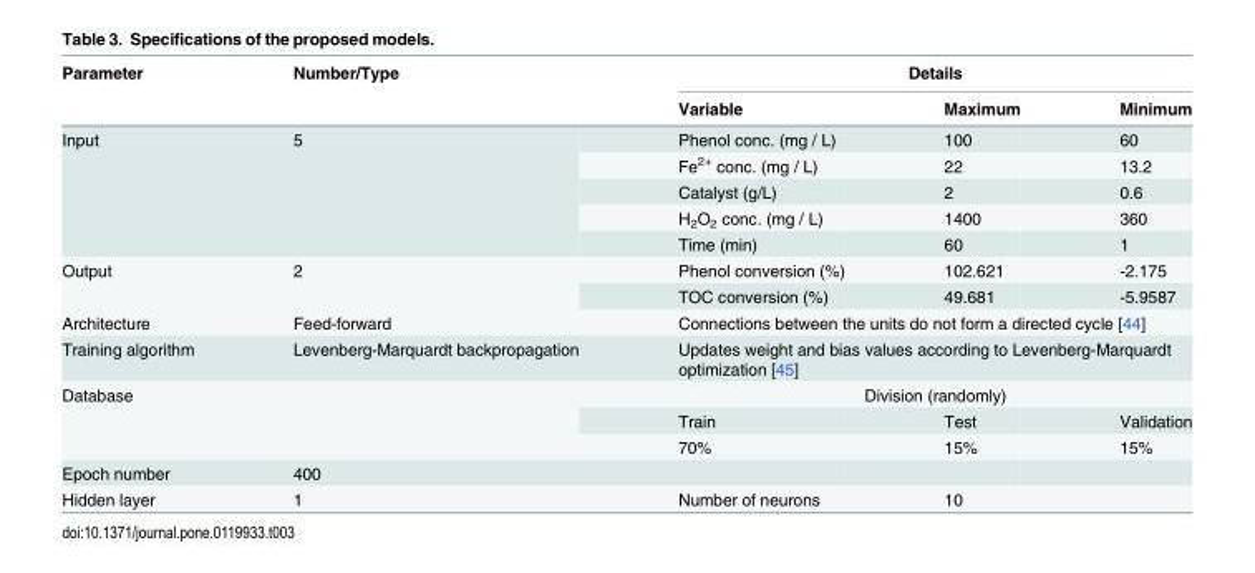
<table><thead><tr><td rowspan="2">Parameter</td><td rowspan="2">Number/Type</td><td colspan="3">Details</td></tr><tr><td>Variable</td><td>Maximum</td><td>Minimum</td></tr></thead><tbody><tr><td rowspan="5">Input</td><td rowspan="5">5</td><td>Phenol conc. (mg / L)</td><td>100</td><td>60</td></tr><tr><td>Fe<sup>2+</sup> conc. (mg / L)</td><td>22</td><td>13.2</td></tr><tr><td>Catalyst (g/L)</td><td>2</td><td>0.6</td></tr><tr><td>H<sub>2</sub>O<sub>2</sub> conc. (mg / L)</td><td>1400</td><td>360</td></tr><tr><td>Time (min)</td><td>60</td><td>1</td></tr><tr><td rowspan="2">Output</td><td rowspan="2">2</td><td>Phenol conversion (%)</td><td>102.621</td><td>-2.175</td></tr><tr><td>TOC conversion (%)</td><td>49.681</td><td>-5.9587</td></tr><tr><td>Architecture</td><td>Feed-forward</td><td colspan="3">Connections between the units do not form a directed cycle [44]</td></tr><tr><td>Training algorithm</td><td>Levenberg-Marquardt backpropagation</td><td colspan="3">Updates weight and bias values according to Levenberg-Marquardt optimization [45]</td></tr><tr><td rowspan="3">Database</td><td rowspan="3"></td><td colspan="3">Division (randomly)</td></tr><tr><td>Train</td><td>Test</td><td>Validation</td></tr><tr><td>70%</td><td>15%</td><td>15%</td></tr><tr><td>Epoch number</td><td>400</td><td></td><td></td><td></td></tr><tr><td>Hidden layer</td><td>1</td><td>Number of neurons</td><td colspan="2">10</td></tr></tbody></table>